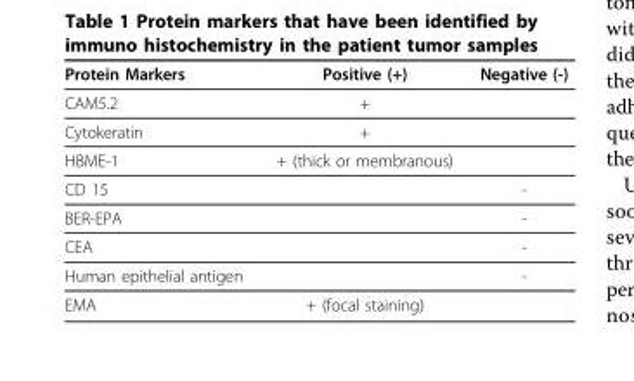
<table><thead><tr><td>Protein Markers</td><td>Positive (+)</td><td>Negative (-)</td></tr></thead><tbody><tr><td>CAM5.2</td><td>+</td><td></td></tr><tr><td>Cytokeratin</td><td>+</td><td></td></tr><tr><td>HBME-1</td><td>+ (thick or membranous)</td><td></td></tr><tr><td>CD 15</td><td></td><td>-</td></tr><tr><td>BER-EPA</td><td></td><td>-</td></tr><tr><td>CEA</td><td></td><td>-</td></tr><tr><td>Human epithelial antigen</td><td></td><td>-</td></tr><tr><td>EMA</td><td>+ (focal staining)</td><td></td></tr></tbody></table>